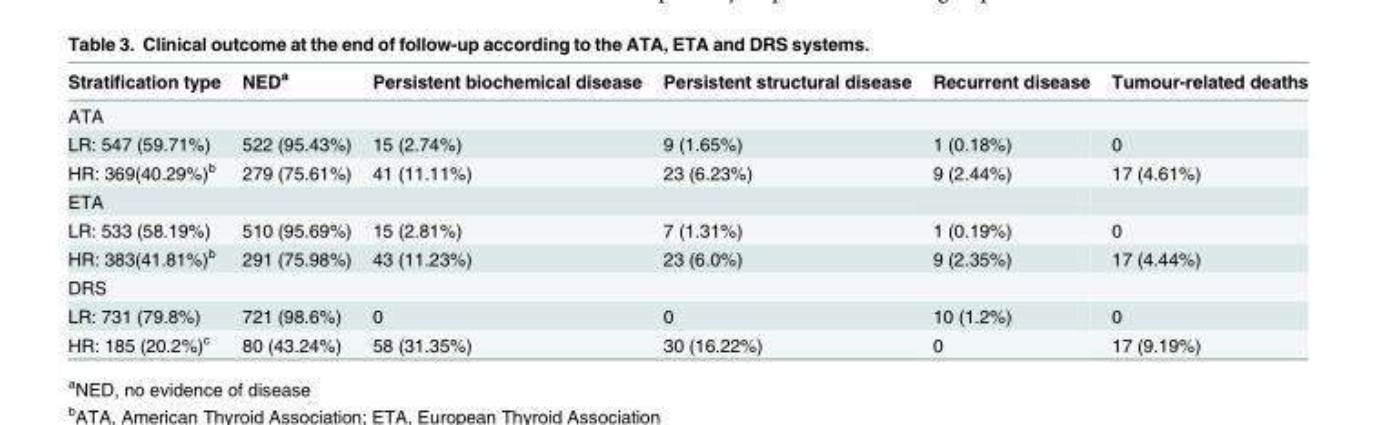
<table><thead><tr><td>Stratification type</td><td>NED<sup>a</sup></td><td>Persistent biochemical disease</td><td>Persistent structural disease</td><td>Recurrent disease</td><td>Tumour-related deaths</td></tr></thead><tbody><tr><td colspan="6">ATA</td></tr><tr><td>LR: 547 (59.71%)</td><td>522 (95.43%)</td><td>15 (2.74%)</td><td>9 (1.65%)</td><td>1 (0.18%)</td><td>0</td></tr><tr><td>HR: 369(40.29%)<sup>b</sup></td><td>279 (75.61%)</td><td>41 (11.11%)</td><td>23 (6.23%)</td><td>9 (2.44%)</td><td>17 (4.61%)</td></tr><tr><td colspan="6">ETA</td></tr><tr><td>LR: 533 (58.19%)</td><td>510 (95.69%)</td><td>15 (2.81%)</td><td>7 (1.31%)</td><td>1 (0.19%)</td><td>0</td></tr><tr><td>HR: 383(41.81%)<sup>b</sup></td><td>291 (75.98%)</td><td>43 (11.23%)</td><td>23 (6.0%)</td><td>9 (2.35%)</td><td>17 (4.44%)</td></tr><tr><td colspan="6">DRS</td></tr><tr><td>LR: 731 (79.8%)</td><td>721 (98.6%)</td><td>0</td><td>0</td><td>10 (1.2%)</td><td>0</td></tr><tr><td>HR: 185 (20.2%)<sup>c</sup></td><td>80 (43.24%)</td><td>58 (31.35%)</td><td>30 (16.22%)</td><td>0</td><td>17 (9.19%)</td></tr></tbody></table>